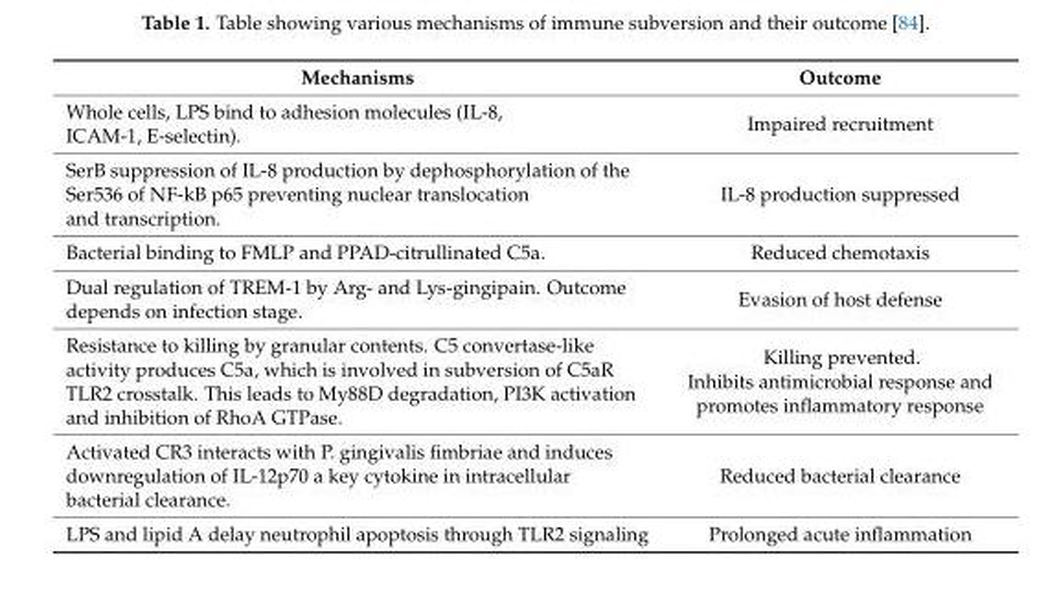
<table><thead><tr><td>Mechanisms</td><td>Outcome</td></tr></thead><tbody><tr><td>Whole cells, LPS bind to adhesion molecules (IL-8, ICAM-1, E-selectin).</td><td>Impaired recruitment</td></tr><tr><td>SerB suppression of IL-8 production by dephosphorylation of the Ser536 of NF-kB p65 preventing nuclear translocation and transcription.</td><td>IL-8 production suppressed</td></tr><tr><td>Bacterial binding to FMLP and PPAD-citrullinated C5a.</td><td>Reduced chemotaxis</td></tr><tr><td>Dual regulation of TREM-1 by Arg- and Lys-gingipain. Outcome depends on infection stage.</td><td>Evasion of host defense</td></tr><tr><td>Resistance to killing by granular contents. C5 convertase-like activity produces C5a, which is involved in subversion of C5aR TLR2 crosstalk. This leads to My88D degradation, PI3K activation and inhibition of RhoA GTPase.</td><td>Killing prevented. Inhibits antimicrobial response and promotes inflammatory response</td></tr><tr><td>Activated CR3 interacts with P. gingivalis fimbriae and induces downregulation of IL-12p70 a key cytokine in intracellular bacterial clearance.</td><td>Reduced bacterial clearance</td></tr><tr><td>LPS and lipid A delay neutrophil apoptosis through TLR2 signaling</td><td>Prolonged acute inflammation</td></tr></tbody></table>